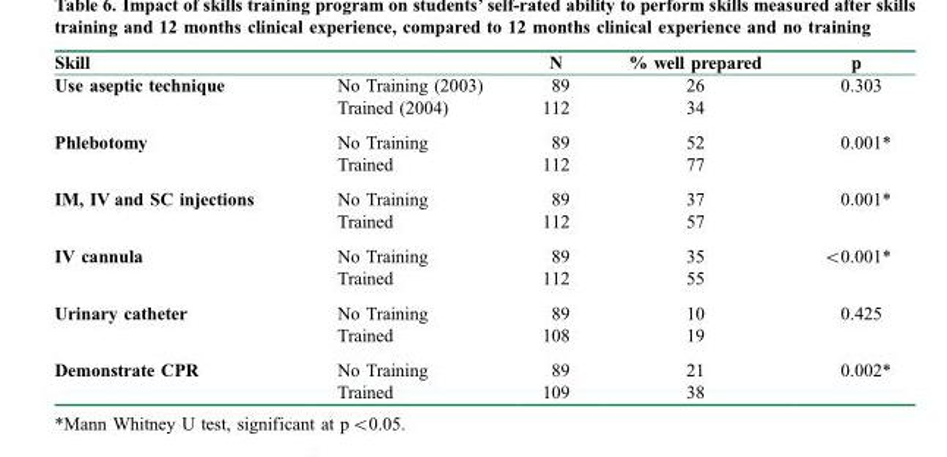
<table><thead><tr><td>Skill</td><td></td><td>N</td><td>% well prepared</td><td>p</td></tr></thead><tbody><tr><td rowspan="2">Use aseptic technique</td><td>No Training (2003)</td><td>89</td><td>26</td><td>0.303</td></tr><tr><td>Trained (2004)</td><td>112</td><td>34</td><td></td></tr><tr><td rowspan="2">Phlebotomy</td><td>No Training</td><td>89</td><td>52</td><td>0.001*</td></tr><tr><td>Trained</td><td>112</td><td>77</td><td></td></tr><tr><td rowspan="2">IM, IV and SC injections</td><td>No Training</td><td>89</td><td>37</td><td>0.001*</td></tr><tr><td>Trained</td><td>112</td><td>57</td><td></td></tr><tr><td rowspan="2">IV cannula</td><td>No Training</td><td>89</td><td>35</td><td>&lt;0.001*</td></tr><tr><td>Trained</td><td>112</td><td>55</td><td></td></tr><tr><td rowspan="2">Urinary catheter</td><td>No Training</td><td>89</td><td>10</td><td>0.425</td></tr><tr><td>Trained</td><td>108</td><td>19</td><td></td></tr><tr><td rowspan="2">Demonstrate CPR</td><td>No Training</td><td>89</td><td>21</td><td>0.002*</td></tr><tr><td>Trained</td><td>109</td><td>38</td><td></td></tr></tbody></table>